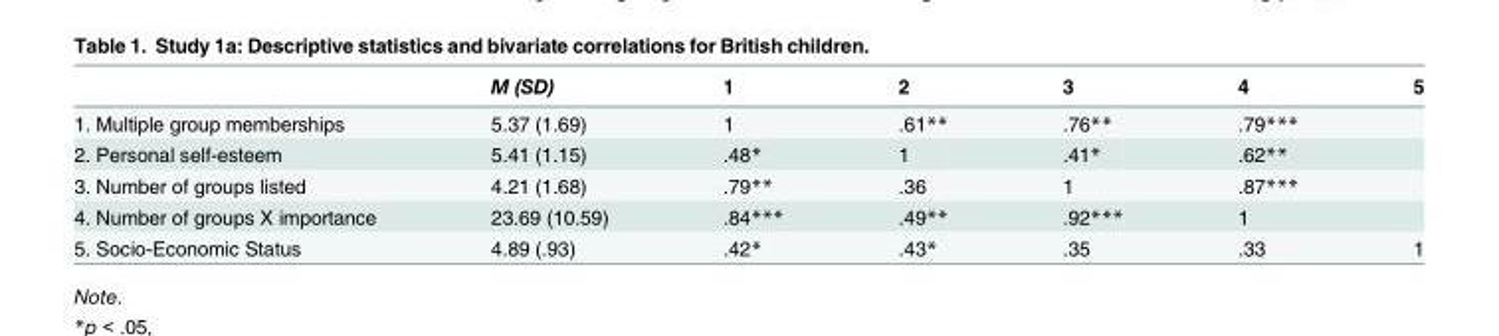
<table><thead><tr><td></td><td>M (SD)</td><td>1</td><td>2</td><td>3</td><td>4</td><td>5</td></tr></thead><tbody><tr><td>1. Multiple group memberships</td><td>5.37 (1.69)</td><td>1</td><td>.61**</td><td>.76**</td><td>.79***</td><td></td></tr><tr><td>2. Personal self-esteem</td><td>5.41 (1.15)</td><td>.48*</td><td>1</td><td>.41*</td><td>.62**</td><td></td></tr><tr><td>3. Number of groups listed</td><td>4.21 (1.68)</td><td>.79**</td><td>.36</td><td>1</td><td>.87***</td><td></td></tr><tr><td>4. Number of groups X importance</td><td>23.69 (10.59)</td><td>.84***</td><td>.49**</td><td>.92***</td><td>1</td><td></td></tr><tr><td>5. Socio-Economic Status</td><td>4.89 (.93)</td><td>.42*</td><td>.43*</td><td>.35</td><td>.33</td><td>1</td></tr></tbody></table>